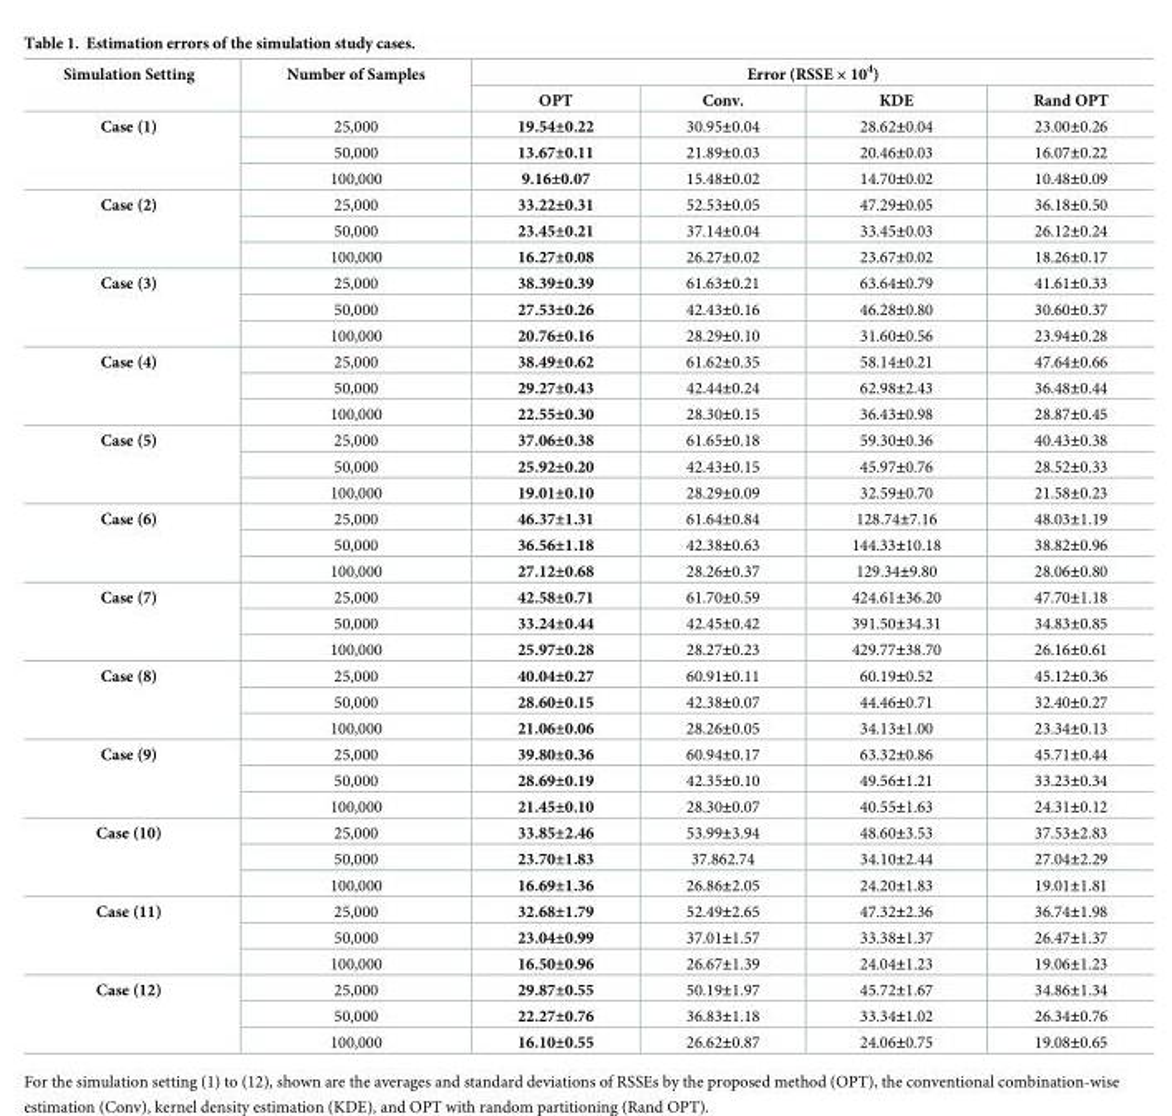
<table><thead><tr><td rowspan="2">Simulation Setting</td><td rowspan="2">Number of Samples</td><td colspan="4">Error (RSSE × 10<sup>4</sup>)</td></tr><tr><td>OPT</td><td>Conv.</td><td>KDE</td><td>Rand OPT</td></tr></thead><tbody><tr><td rowspan="3">Case (1)</td><td>25,000</td><td>19.54±0.22</td><td>30.95±0.04</td><td>28.62±0.04</td><td>23.00±0.26</td></tr><tr><td>50,000</td><td>13.67±0.11</td><td>21.89±0.03</td><td>20.46±0.03</td><td>16.07±0.22</td></tr><tr><td>100,000</td><td>9.16±0.07</td><td>15.48±0.02</td><td>14.70±0.02</td><td>10.48±0.09</td></tr><tr><td rowspan="3">Case (2)</td><td>25,000</td><td>33.22±0.31</td><td>52.53±0.05</td><td>47.29±0.05</td><td>36.18±0.50</td></tr><tr><td>50,000</td><td>23.45±0.21</td><td>37.14±0.04</td><td>33.45±0.03</td><td>26.12±0.24</td></tr><tr><td>100,000</td><td>16.27±0.08</td><td>26.27±0.02</td><td>23.67±0.02</td><td>18.26±0.17</td></tr><tr><td rowspan="3">Case (3)</td><td>25,000</td><td>38.39±0.39</td><td>61.63±0.21</td><td>63.64±0.79</td><td>41.61±0.33</td></tr><tr><td>50,000</td><td>27.53±0.26</td><td>42.43±0.16</td><td>46.28±0.80</td><td>30.60±0.37</td></tr><tr><td>100,000</td><td>20.76±0.16</td><td>28.29±0.10</td><td>31.60±0.56</td><td>23.94±0.28</td></tr><tr><td rowspan="3">Case (4)</td><td>25,000</td><td>38.49±0.62</td><td>61.62±0.35</td><td>58.14±0.21</td><td>47.64±0.66</td></tr><tr><td>50,000</td><td>29.27±0.43</td><td>42.44±0.24</td><td>62.98±2.43</td><td>36.48±0.44</td></tr><tr><td>100,000</td><td>22.55±0.30</td><td>28.30±0.15</td><td>36.43±0.98</td><td>28.87±0.45</td></tr><tr><td rowspan="3">Case (5)</td><td>25,000</td><td>37.06±0.38</td><td>61.65±0.18</td><td>59.30±0.36</td><td>40.43±0.38</td></tr><tr><td>50,000</td><td>25.92±0.20</td><td>42.43±0.15</td><td>45.97±0.76</td><td>28.52±0.33</td></tr><tr><td>100,000</td><td>19.01±0.10</td><td>28.29±0.09</td><td>32.59±0.70</td><td>21.58±0.23</td></tr><tr><td rowspan="3">Case (6)</td><td>25,000</td><td>46.37±1.31</td><td>61.64±0.84</td><td>128.74±7.16</td><td>48.03±1.19</td></tr><tr><td>50,000</td><td>36.56±1.18</td><td>42.38±0.63</td><td>144.33±10.18</td><td>38.82±0.96</td></tr><tr><td>100,000</td><td>27.12±0.68</td><td>28.26±0.37</td><td>129.34±9.80</td><td>28.06±0.80</td></tr><tr><td rowspan="3">Case (7)</td><td>25,000</td><td>42.58±0.71</td><td>61.70±0.59</td><td>424.61±36.20</td><td>47.70±1.18</td></tr><tr><td>50,000</td><td>33.24±0.44</td><td>42.45±0.42</td><td>391.50±34.31</td><td>34.83±0.85</td></tr><tr><td>100,000</td><td>25.97±0.28</td><td>28.27±0.23</td><td>429.77±38.70</td><td>26.16±0.61</td></tr><tr><td rowspan="3">Case (8)</td><td>25,000</td><td>40.04±0.27</td><td>60.91±0.11</td><td>60.19±0.52</td><td>45.12±0.36</td></tr><tr><td>50,000</td><td>28.60±0.15</td><td>42.38±0.07</td><td>44.46±0.71</td><td>32.40±0.27</td></tr><tr><td>100,000</td><td>21.06±0.06</td><td>28.26±0.05</td><td>34.13±1.00</td><td>23.34±0.13</td></tr><tr><td rowspan="3">Case (9)</td><td>25,000</td><td>39.80±0.36</td><td>60.94±0.17</td><td>63.32±0.86</td><td>45.71±0.44</td></tr><tr><td>50,000</td><td>28.69±0.19</td><td>42.35±0.10</td><td>49.56±1.21</td><td>33.23±0.34</td></tr><tr><td>100,000</td><td>21.45±0.10</td><td>28.30±0.07</td><td>40.55±1.63</td><td>24.31±0.12</td></tr><tr><td rowspan="3">Case (10)</td><td>25,000</td><td>33.85±2.46</td><td>53.99±3.94</td><td>48.60±3.53</td><td>37.53±2.83</td></tr><tr><td>50,000</td><td>23.70±1.83</td><td>37.862.74</td><td>34.10±2.44</td><td>27.04±2.29</td></tr><tr><td>100,000</td><td>16.69±1.36</td><td>26.86±2.05</td><td>24.20±1.83</td><td>19.01±1.81</td></tr><tr><td rowspan="3">Case (11)</td><td>25,000</td><td>32.68±1.79</td><td>52.49±2.65</td><td>47.32±2.36</td><td>36.74±1.98</td></tr><tr><td>50,000</td><td>23.04±0.99</td><td>37.01±1.57</td><td>33.38±1.37</td><td>26.47±1.37</td></tr><tr><td>100,000</td><td>16.50±0.96</td><td>26.67±1.39</td><td>24.04±1.23</td><td>19.06±1.23</td></tr><tr><td rowspan="3">Case (12)</td><td>25,000</td><td>29.87±0.55</td><td>50.19±1.97</td><td>45.72±1.67</td><td>34.86±1.34</td></tr><tr><td>50,000</td><td>22.27±0.76</td><td>36.83±1.18</td><td>33.34±1.02</td><td>26.34±0.76</td></tr><tr><td>100,000</td><td>16.10±0.55</td><td>26.62±0.87</td><td>24.06±0.75</td><td>19.08±0.65</td></tr></tbody></table>